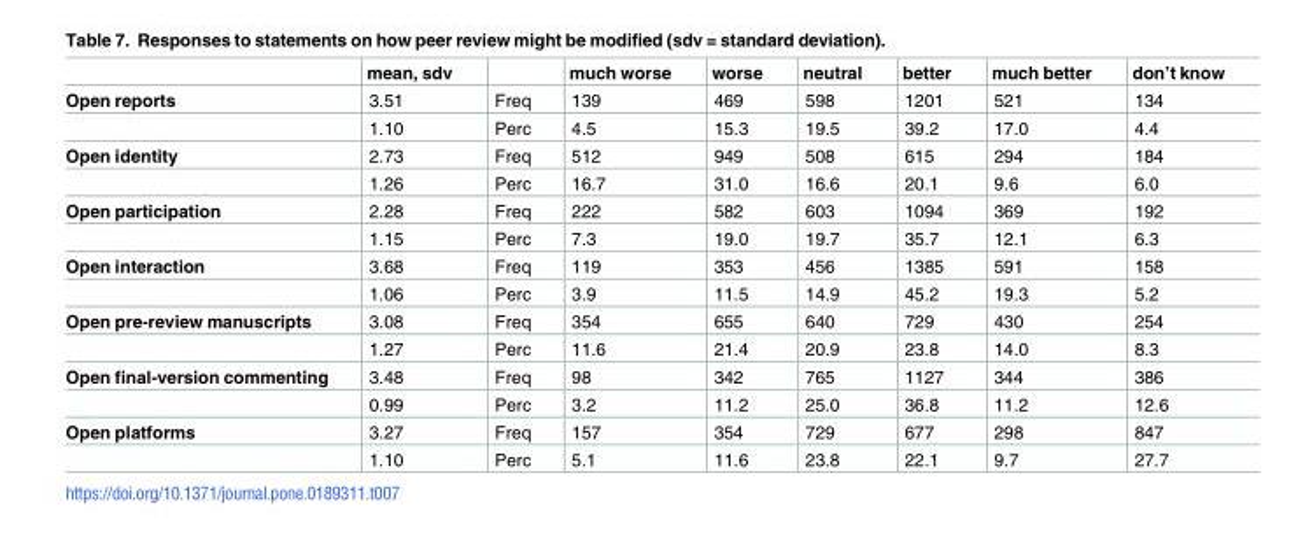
<table><thead><tr><td></td><td>mean, sdv</td><td></td><td>much worse</td><td>worse</td><td>neutral</td><td>better</td><td>much better</td><td>don’t know</td></tr></thead><tbody><tr><td rowspan="2">Open reports</td><td>3.51</td><td>Freq</td><td>139</td><td>469</td><td>598</td><td>1201</td><td>521</td><td>134</td></tr><tr><td>1.10</td><td>Perc</td><td>4.5</td><td>15.3</td><td>19.5</td><td>39.2</td><td>17.0</td><td>4.4</td></tr><tr><td rowspan="2">Open identity</td><td>2.73</td><td>Freq</td><td>512</td><td>949</td><td>508</td><td>615</td><td>294</td><td>184</td></tr><tr><td>1.26</td><td>Perc</td><td>16.7</td><td>31.0</td><td>16.6</td><td>20.1</td><td>9.6</td><td>6.0</td></tr><tr><td rowspan="2">Open participation</td><td>2.28</td><td>Freq</td><td>222</td><td>582</td><td>603</td><td>1094</td><td>369</td><td>192</td></tr><tr><td>1.15</td><td>Perc</td><td>7.3</td><td>19.0</td><td>19.7</td><td>35.7</td><td>12.1</td><td>6.3</td></tr><tr><td rowspan="2">Open interaction</td><td>3.68</td><td>Freq</td><td>119</td><td>353</td><td>456</td><td>1385</td><td>591</td><td>158</td></tr><tr><td>1.06</td><td>Perc</td><td>3.9</td><td>11.5</td><td>14.9</td><td>45.2</td><td>19.3</td><td>5.2</td></tr><tr><td rowspan="2">Open pre-review manuscripts</td><td>3.08</td><td>Freq</td><td>354</td><td>655</td><td>640</td><td>729</td><td>430</td><td>254</td></tr><tr><td>1.27</td><td>Perc</td><td>11.6</td><td>21.4</td><td>20.9</td><td>23.8</td><td>14.0</td><td>8.3</td></tr><tr><td rowspan="2">Open final-version commenting</td><td>3.48</td><td>Freq</td><td>98</td><td>342</td><td>765</td><td>1127</td><td>344</td><td>386</td></tr><tr><td>0.99</td><td>Perc</td><td>3.2</td><td>11.2</td><td>25.0</td><td>36.8</td><td>11.2</td><td>12.6</td></tr><tr><td rowspan="2">Open platforms</td><td>3.27</td><td>Freq</td><td>157</td><td>354</td><td>729</td><td>677</td><td>298</td><td>847</td></tr><tr><td>1.10</td><td>Perc</td><td>5.1</td><td>11.6</td><td>23.8</td><td>22.1</td><td>9.7</td><td>27.7</td></tr></tbody></table>